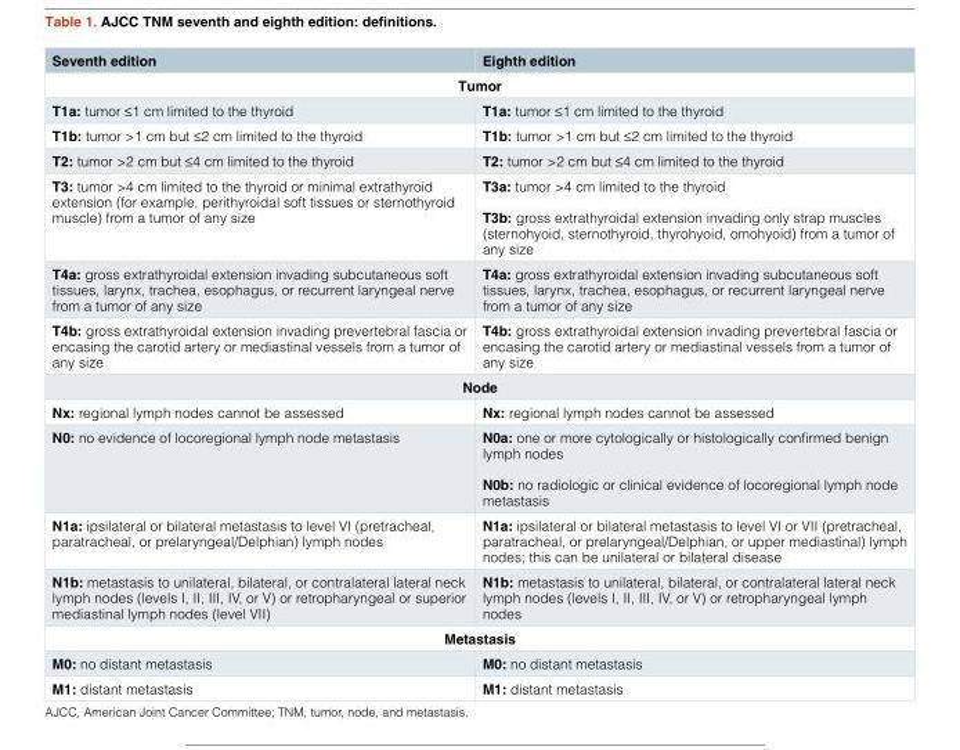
<table><thead><tr><td>Seventh edition</td><td>Eighth edition</td></tr></thead><tbody><tr><td colspan="2">Tumor</td></tr><tr><td>T1a: tumor ≤1 cm limited to the thyroid</td><td>T1a: tumor ≤1 cm limited to the thyroid</td></tr><tr><td>T1b: tumor &gt;1 cm but ≤2 cm limited to the thyroid</td><td>T1b: tumor &gt;1 cm but ≤2 cm limited to the thyroid</td></tr><tr><td>T2: tumor &gt;2 cm but ≤4 cm limited to the thyroid</td><td>T2: tumor &gt;2 cm but ≤4 cm limited to the thyroid</td></tr><tr><td>T3: tumor &gt;4 cm limited to the thyroid or minimal extrathyroid extension (for example, perithyroidal soft tissues or sternothyroid muscle) from a tumor of any size</td><td>T3a: tumor &gt;4 cm limited to the thyroid T3b: gross extrathyroidal extension invading only strap muscles (sternohyoid, sternothyroid, thyrohyoid, omohyoid) from a tumor of any size</td></tr><tr><td>T4a: gross extrathyroidal extension invading subcutaneous soft tissues, larynx, trachea, esophagus, or recurrent laryngeal nerve from a tumor of any size</td><td>T4a: gross extrathyroidal extension invading subcutaneous soft tissues, larynx, trachea, esophagus, or recurrent laryngeal nerve from a tumor of any size</td></tr><tr><td>T4b: gross extrathyroidal extension invading prevertebral fascia or encasing the carotid artery or mediastinal vessels from a tumor of any size</td><td>T4b: gross extrathyroidal extension invading prevertebral fascia or encasing the carotid artery or mediastinal vessels from a tumor of any size</td></tr><tr><td colspan="2">Node</td></tr><tr><td>Nx: regional lymph nodes cannot be assessed</td><td>Nx: regional lymph nodes cannot be assessed</td></tr><tr><td>N0: no evidence of locoregional lymph node metastasis</td><td>N0a: one or more cytologically or histologically confirmed benign lymph nodes N0b: no radiologic or clinical evidence of locoregional lymph node metastasis</td></tr><tr><td>N1a: ipsilateral or bilateral metastasis to level VI (pretracheal, paratracheal, or prelaryngeal/Delphian) lymph nodes</td><td>N1a: ipsilateral or bilateral metastasis to level VI or VII (pretracheal, paratracheal, or prelaryngeal/Delphian, or upper mediastinal) lymph nodes; this can be unilateral or bilateral disease</td></tr><tr><td>N1b: metastasis to unilateral, bilateral, or contralateral lateral neck lymph nodes (levels I, II, III, IV, or V) or retropharyngeal or superior mediastinal lymph nodes (level VII)</td><td>N1b: metastasis to unilateral, bilateral, or contralateral lateral neck lymph nodes (levels I, II, III, IV, or V) or retropharyngeal lymph nodes</td></tr><tr><td colspan="2">Metastasis</td></tr><tr><td>M0: no distant metastasis</td><td>M0: no distant metastasis</td></tr><tr><td>M1: distant metastasis</td><td>M1: distant metastasis</td></tr></tbody></table>